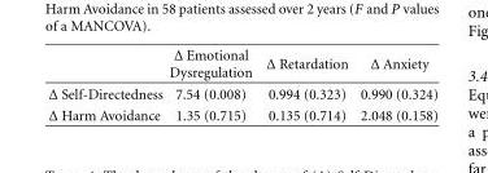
<table><thead><tr><td></td><td>Δ Emotional Dysregulation</td><td>Δ Retardation</td><td>Δ Anxiety</td></tr></thead><tbody><tr><td>Δ Self-Directedness</td><td>7.54 (0.008)</td><td>0.994 (0.323)</td><td>0.990 (0.324)</td></tr><tr><td>Δ Harm Avoidance</td><td>1.35 (0.715)</td><td>0.135 (0.714)</td><td>2.048 (0.158)</td></tr></tbody></table>